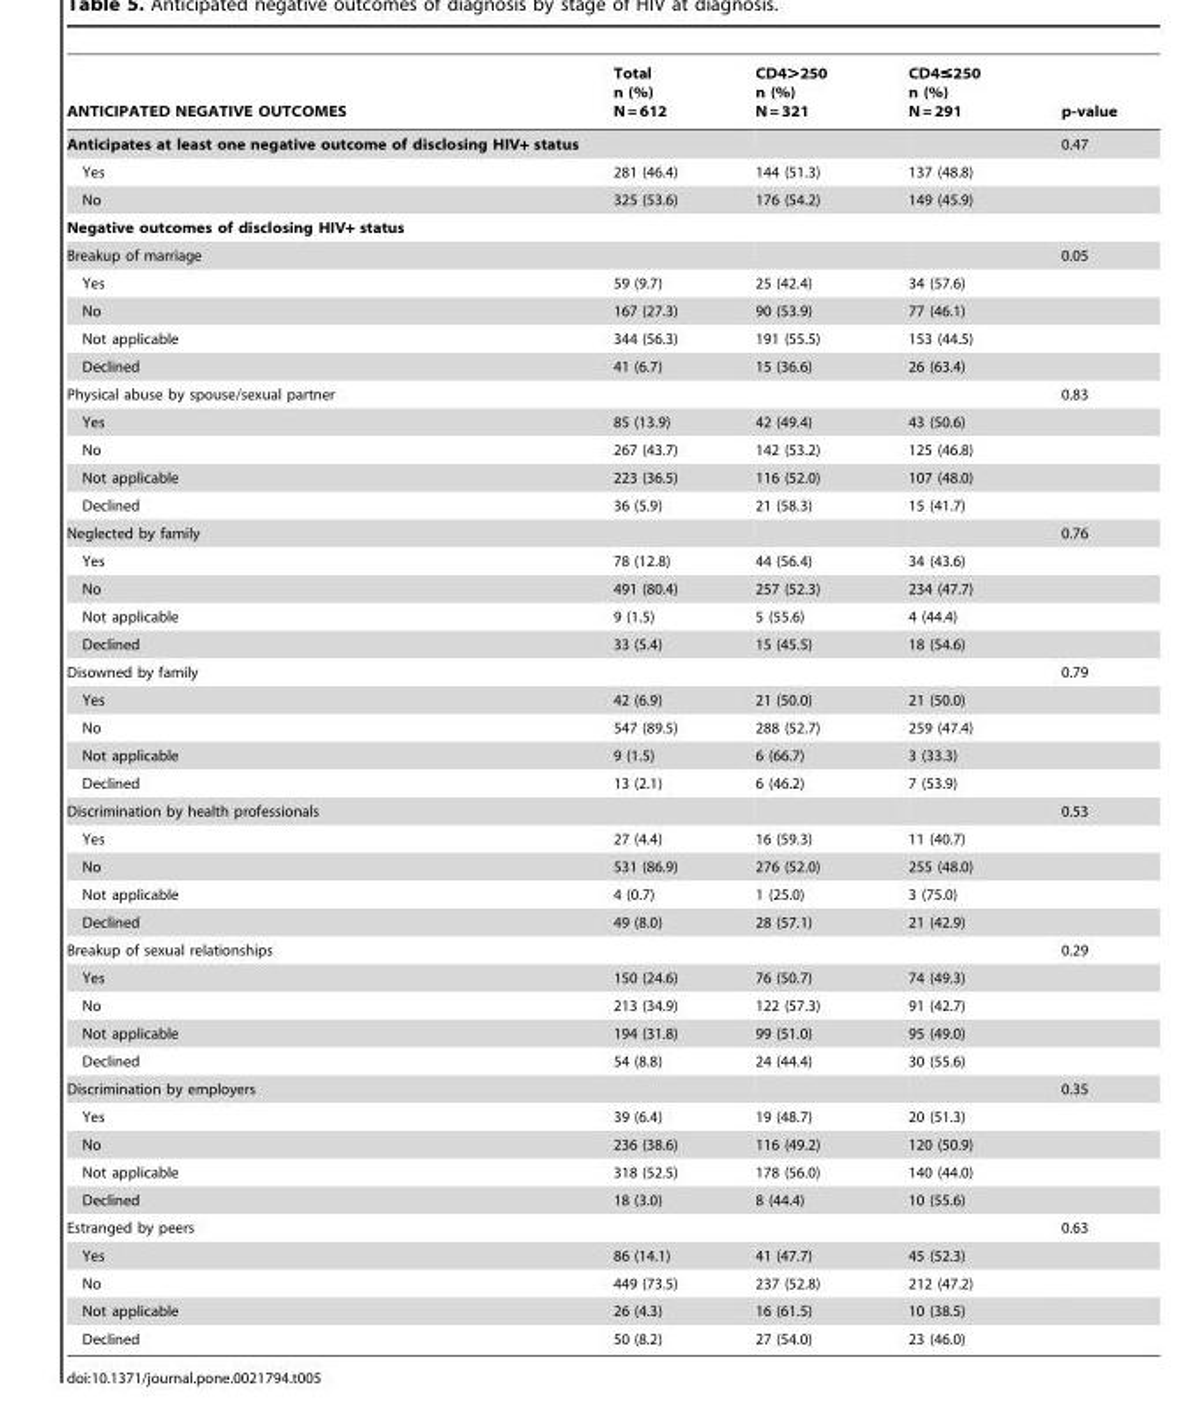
<table><thead><tr><td>ANTICIPATED NEGATIVE OUTCOMES</td><td>Total n (%) N = 612</td><td>CD4&gt;250 n (%) N = 321</td><td>CD4≤250 n (%) N = 291</td><td>p-value</td></tr></thead><tbody><tr><td>Anticipates at least one negative outcome of disclosing HIV+ status</td><td></td><td></td><td></td><td>0.47</td></tr><tr><td>Yes</td><td>281 (46.4)</td><td>144 (51.3)</td><td>137 (48.8)</td><td></td></tr><tr><td>No</td><td>325 (53.6)</td><td>176 (54.2)</td><td>149 (45.9)</td><td></td></tr><tr><td colspan="5">Negative outcomes of disclosing HIV+ status</td></tr><tr><td>Breakup of marriage</td><td></td><td></td><td></td><td>0.05</td></tr><tr><td>Yes</td><td>59 (9.7)</td><td>25 (42.4)</td><td>34 (57.6)</td><td></td></tr><tr><td>No</td><td>167 (27.3)</td><td>90 (53.9)</td><td>77 (46.1)</td><td></td></tr><tr><td>Not applicable</td><td>344 (56.3)</td><td>191 (55.5)</td><td>153 (44.5)</td><td></td></tr><tr><td>Declined</td><td>41 (6.7)</td><td>15 (36.6)</td><td>26 (63.4)</td><td></td></tr><tr><td>Physical abuse by spouse/sexual partner</td><td></td><td></td><td></td><td>0.83</td></tr><tr><td>Yes</td><td>85 (13.9)</td><td>42 (49.4)</td><td>43 (50.6)</td><td></td></tr><tr><td>No</td><td>267 (43.7)</td><td>142 (53.2)</td><td>125 (46.8)</td><td></td></tr><tr><td>Not applicable</td><td>223 (36.5)</td><td>116 (52.0)</td><td>107 (48.0)</td><td></td></tr><tr><td>Declined</td><td>36 (5.9)</td><td>21 (58.3)</td><td>15 (41.7)</td><td></td></tr><tr><td>Neglected by family</td><td></td><td></td><td></td><td>0.76</td></tr><tr><td>Yes</td><td>78 (12.8)</td><td>44 (56.4)</td><td>34 (43.6)</td><td></td></tr><tr><td>No</td><td>491 (80.4)</td><td>257 (52.3)</td><td>234 (47.7)</td><td></td></tr><tr><td>Not applicable</td><td>9 (1.5)</td><td>5 (55.6)</td><td>4 (44.4)</td><td></td></tr><tr><td>Declined</td><td>33 (5.4)</td><td>15 (45.5)</td><td>18 (54.6)</td><td></td></tr><tr><td>Disowned by family</td><td></td><td></td><td></td><td>0.79</td></tr><tr><td>Yes</td><td>42 (6.9)</td><td>21 (50.0)</td><td>21 (50.0)</td><td></td></tr><tr><td>No</td><td>547 (89.5)</td><td>288 (52.7)</td><td>259 (47.4)</td><td></td></tr><tr><td>Not applicable</td><td>9 (1.5)</td><td>6 (66.7)</td><td>3 (33.3)</td><td></td></tr><tr><td>Declined</td><td>13 (2.1)</td><td>6 (46.2)</td><td>7 (53.9)</td><td></td></tr><tr><td>Discrimination by health professionals</td><td></td><td></td><td></td><td>0.53</td></tr><tr><td>Yes</td><td>27 (4.4)</td><td>16 (59.3)</td><td>11 (40.7)</td><td></td></tr><tr><td>No</td><td>531 (86.9)</td><td>276 (52.0)</td><td>255 (48.0)</td><td></td></tr><tr><td>Not applicable</td><td>4 (0.7)</td><td>1 (25.0)</td><td>3 (75.0)</td><td></td></tr><tr><td>Declined</td><td>49 (8.0)</td><td>28 (57.1)</td><td>21 (42.9)</td><td></td></tr><tr><td>Breakup of sexual relationships</td><td></td><td></td><td></td><td>0.29</td></tr><tr><td>Yes</td><td>150 (24.6)</td><td>76 (50.7)</td><td>74 (49.3)</td><td></td></tr><tr><td>No</td><td>213 (34.9)</td><td>122 (57.3)</td><td>91 (42.7)</td><td></td></tr><tr><td>Not applicable</td><td>194 (31.8)</td><td>99 (51.0)</td><td>95 (49.0)</td><td></td></tr><tr><td>Declined</td><td>54 (8.8)</td><td>24 (44.4)</td><td>30 (55.6)</td><td></td></tr><tr><td>Discrimination by employers</td><td></td><td></td><td></td><td>0.35</td></tr><tr><td>Yes</td><td>39 (6.4)</td><td>19 (48.7)</td><td>20 (51.3)</td><td></td></tr><tr><td>No</td><td>236 (38.6)</td><td>116 (49.2)</td><td>120 (50.9)</td><td></td></tr><tr><td>Not applicable</td><td>318 (52.5)</td><td>178 (56.0)</td><td>140 (44.0)</td><td></td></tr><tr><td>Declined</td><td>18 (3.0)</td><td>8 (44.4)</td><td>10 (55.6)</td><td></td></tr><tr><td>Estranged by peers</td><td></td><td></td><td></td><td>0.63</td></tr><tr><td>Yes</td><td>86 (14.1)</td><td>41 (47.7)</td><td>45 (52.3)</td><td></td></tr><tr><td>No</td><td>449 (73.5)</td><td>237 (52.8)</td><td>212 (47.2)</td><td></td></tr><tr><td>Not applicable</td><td>26 (4.3)</td><td>16 (61.5)</td><td>10 (38.5)</td><td></td></tr><tr><td>Declined</td><td>50 (8.2)</td><td>27 (54.0)</td><td>23 (46.0)</td><td></td></tr></tbody></table>